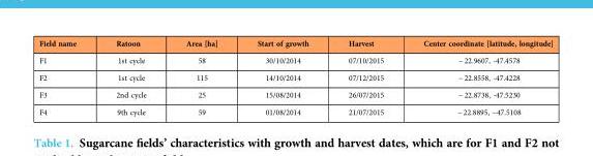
<table><thead><tr><td>Field name</td><td>Ratoon</td><td>Area [ha]</td><td>Start of growth</td><td>Harvest</td><td>Center coordinate [latitude, longitude]</td></tr></thead><tbody><tr><td>F1</td><td>1st cycle</td><td>58</td><td>30/10/2014</td><td>07/10/2015</td><td>− 22.9607, -47.4578</td></tr><tr><td>F2</td><td>1st cycle</td><td>115</td><td>14/10/2014</td><td>07/12/2015</td><td>− 22.8558, -47.4228</td></tr><tr><td>F3</td><td>2nd cycle</td><td>25</td><td>15/08/2014</td><td>26/07/2015</td><td>− 22.8738, -47.5230</td></tr><tr><td>F4</td><td>9th cycle</td><td>59</td><td>01/08/2014</td><td>21/07/2015</td><td>− 22.8895, −47.5108</td></tr></tbody></table>